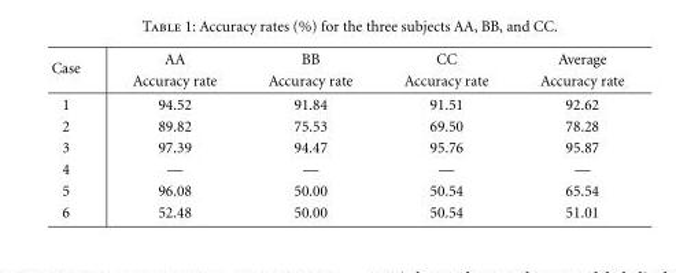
<table><thead><tr><td rowspan="2">Case</td><td rowspan="2">AA Accuracy rate</td><td rowspan="2">BB Accuracy rate</td><td rowspan="2">CC Accuracy rate</td><td rowspan="2">Average Accuracy rate</td></tr><tr></tr></thead><tbody><tr><td>1</td><td>94.52</td><td>91.84</td><td>91.51</td><td>92.62</td></tr><tr><td>2</td><td>89.82</td><td>75.53</td><td>69.50</td><td>78.28</td></tr><tr><td>3</td><td>97.39</td><td>94.47</td><td>95.76</td><td>95.87</td></tr><tr><td>4</td><td>—</td><td>—</td><td>—</td><td>—</td></tr><tr><td>5</td><td>96.08</td><td>50.00</td><td>50.54</td><td>65.54</td></tr><tr><td>6</td><td>52.48</td><td>50.00</td><td>50.54</td><td>51.01</td></tr></tbody></table>